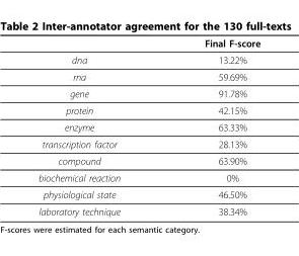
<table><thead><tr><td></td><td>Final F-score</td></tr></thead><tbody><tr><td>dna</td><td>13.22%</td></tr><tr><td>rna</td><td>59.69%</td></tr><tr><td>gene</td><td>91.78%</td></tr><tr><td>protein</td><td>42.15%</td></tr><tr><td>enzyme</td><td>63.33%</td></tr><tr><td>transcription factor</td><td>28.13%</td></tr><tr><td>compound</td><td>63.90%</td></tr><tr><td>biochemical reaction</td><td>0%</td></tr><tr><td>physiological state</td><td>46.50%</td></tr><tr><td>laboratory technique</td><td>38.34%</td></tr></tbody></table>